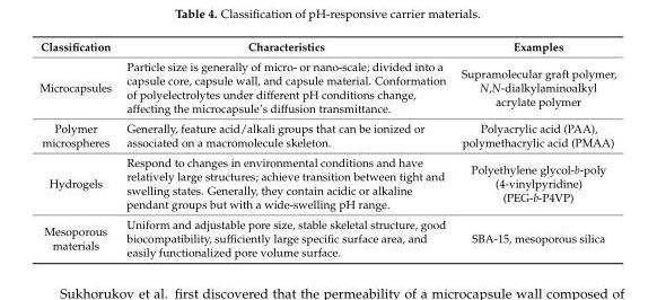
<table><thead><tr><td>Classification</td><td>Characteristics</td><td>Examples</td></tr></thead><tbody><tr><td>Microcapsules</td><td>Particle size is generally of micro- or nano-scale; divided into a capsule core, capsule wall, and capsule material. Conformation of polyelectrolytes under different pH conditions change, affecting the microcapsule’s diffusion transmittance.</td><td>Supramolecular graft polymer, N,N-dialkylaminoalkyl acrylate polymer</td></tr><tr><td>Polymer microspheres</td><td>Generally, feature acid/alkali groups that can be ionized or associated on a macromolecule skeleton.</td><td>Polyacrylic acid (PAA), polymethacrylic acid (PMAA)</td></tr><tr><td>Hydrogels</td><td>Respond to changes in environmental conditions and have relatively large structures; achieve transition between tight and swelling states. Generally, they contain acidic or alkaline pendant groups but with a wide-swelling pH range.</td><td>Polyethylene glycol-b-poly (4-vinylpyridine) (PEG-b-P4VP)</td></tr><tr><td>Mesoporous materials</td><td>Uniform and adjustable pore size, stable skeletal structure, good biocompatibility, sufficiently large specific surface area, and easily functionalized pore volume surface.</td><td>SBA-15, mesoporous silica</td></tr></tbody></table>